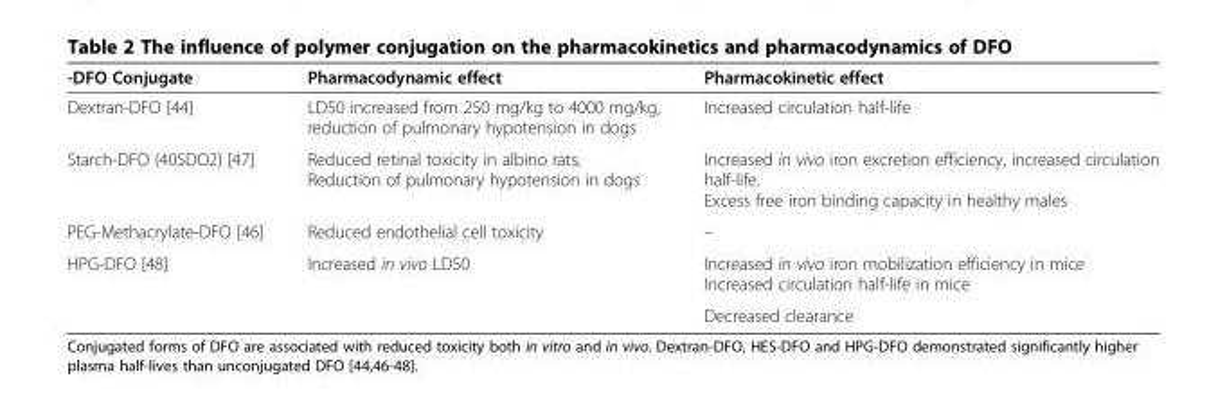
<table><thead><tr><td>-DFO Conjugate</td><td>Pharmacodynamic effect</td><td>Pharmacokinetic effect</td></tr></thead><tbody><tr><td>Dextran-DFO [44]</td><td>LD50 increased from 250 mg/kg to 4000 mg/kg, reduction of pulmonary hypotension in dogs</td><td>Increased circulation half-life</td></tr><tr><td>Starch-DFO (40SDO2) [47]</td><td>Reduced retinal toxicity in albino rats, Reduction of pulmonary hypotension in dogs</td><td>Increased in vivo iron excretion efficiency, increased circulation half-life. Excess free iron binding capacity in healthy males</td></tr><tr><td>PEG-Methacrylate-DFO [46]</td><td>Reduced endothelial cell toxicity</td><td>–</td></tr><tr><td rowspan="2">HPG-DFO [48]</td><td rowspan="2">Increased in vivo LD50</td><td>Increased in vivo iron mobilization efficiency in mice Increased circulation half-life in mice</td></tr><tr><td>Decreased clearance</td></tr></tbody></table>